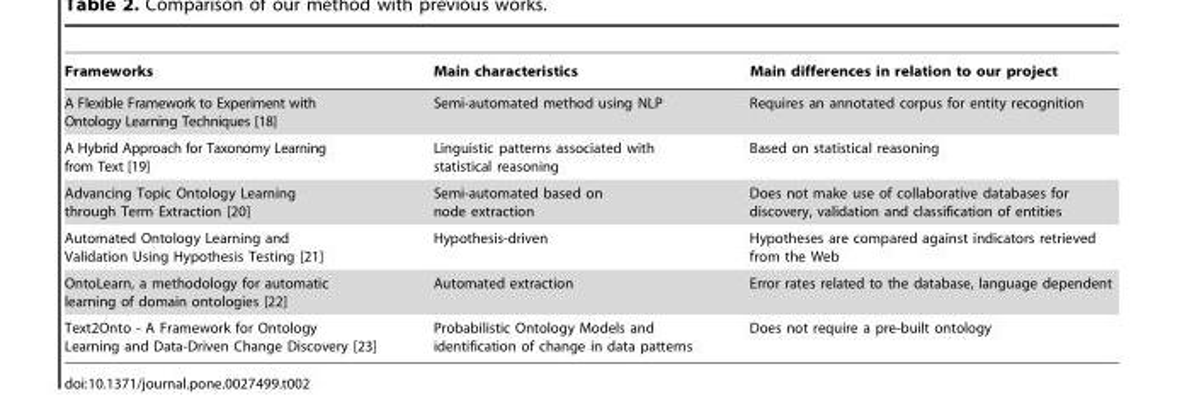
<table><thead><tr><td>Frameworks</td><td>Main characteristics</td><td>Main differences in relation to our project</td></tr></thead><tbody><tr><td>A Flexible Framework to Experiment with Ontology Learning Techniques [18]</td><td>Semi-automated method using NLP</td><td>Requires an annotated corpus for entity recognition</td></tr><tr><td>A Hybrid Approach for Taxonomy Learning from Text [19]</td><td>Linguistic patterns associated with statistical reasoning</td><td>Based on statistical reasoning</td></tr><tr><td>Advancing Topic Ontology Learning through Term Extraction [20]</td><td>Semi-automated based on node extraction</td><td>Does not make use of collaborative databases for discovery, validation and classification of entities</td></tr><tr><td>Automated Ontology Learning and Validation Using Hypothesis Testing [21]</td><td>Hypothesis-driven</td><td>Hypotheses are compared against indicators retrieved from the Web</td></tr><tr><td>OntoLearn, a methodology for automatic learning of domain ontologies [22]</td><td>Automated extraction</td><td>Error rates related to the database, language dependent</td></tr><tr><td>Text2Onto - A Framework for Ontology Learning and Data-Driven Change Discovery [23]</td><td>Probabilistic Ontology Models and identification of change in data patterns</td><td>Does not require a pre-built ontology</td></tr></tbody></table>